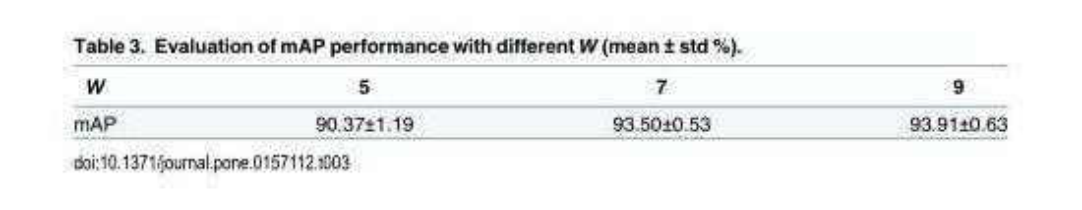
<table><thead><tr><td>W</td><td>5</td><td>7</td><td>9</td></tr></thead><tbody><tr><td>mAP</td><td>90.37±1.19</td><td>93.50±0.53</td><td>93.91±0.63</td></tr></tbody></table>